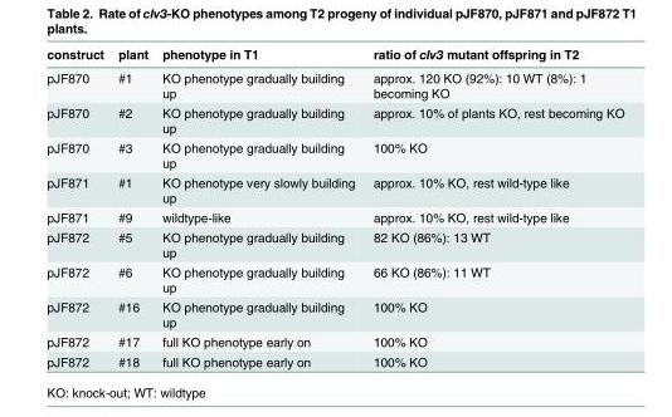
<table><thead><tr><td>construct</td><td>plant</td><td>phenotype in T1</td><td>ratio of clv3 mutant offspring in T2</td></tr></thead><tbody><tr><td>pJF870</td><td>#1</td><td>KO phenotype gradually building up</td><td>approx. 120 KO (92%): 10 WT (8%): 1 becoming KO</td></tr><tr><td>pJF870</td><td>#2</td><td>KO phenotype gradually building up</td><td>approx. 10% of plants KO, rest becoming KO</td></tr><tr><td>pJF870</td><td>#3</td><td>KO phenotype gradually building up</td><td>100% KO</td></tr><tr><td>pJF871</td><td>#1</td><td>KO phenotype very slowly building up</td><td>approx. 10% KO, rest wild-type like</td></tr><tr><td>pJF871</td><td>#9</td><td>wildtype-like</td><td>approx. 10% KO, rest wild-type like</td></tr><tr><td>pJF872</td><td>#5</td><td>KO phenotype gradually building up</td><td>82 KO (86%): 13 WT</td></tr><tr><td>pJF872</td><td>#6</td><td>KO phenotype gradually building up</td><td>66 KO (86%): 11 WT</td></tr><tr><td>pJF872</td><td>#16</td><td>KO phenotype gradually building up</td><td>100% KO</td></tr><tr><td>pJF872</td><td>#17</td><td>full KO phenotype early on</td><td>100% KO</td></tr><tr><td>pJF872</td><td>#18</td><td>full KO phenotype early on</td><td>100% KO</td></tr></tbody></table>